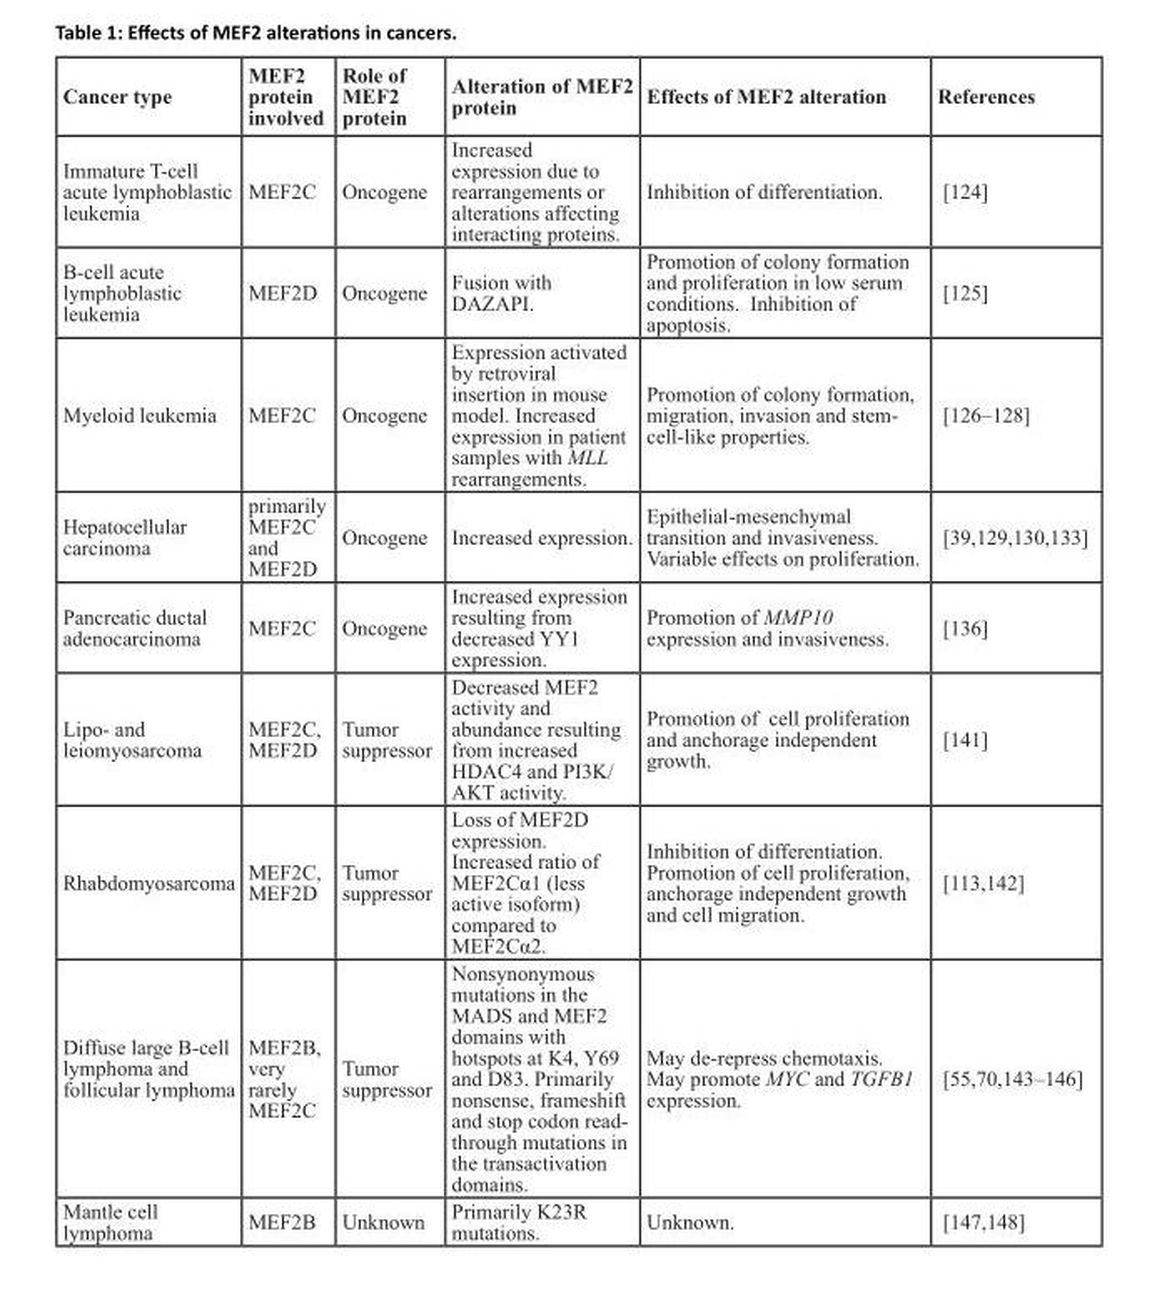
<table><thead><tr><td>Cancer type</td><td>MEF2 protein involved</td><td>Role of MEF2 protein</td><td>Alteration of MEF2 protein</td><td>Effects of MEF2 alteration</td><td>References</td></tr></thead><tbody><tr><td>Immature T-cell acute lymphoblastic leukemia</td><td>MEF2C</td><td>Oncogene</td><td>Increased expression due to rearrangements or alterations affecting interacting proteins.</td><td>Inhibition of differentiation.</td><td>[124]</td></tr><tr><td>B-cell acute lymphoblastic leukemia</td><td>MEF2D</td><td>Oncogene</td><td>Fusion with DAZAPI.</td><td>Promotion of colony formation and proliferation in low serum conditions. Inhibition of apoptosis.</td><td>[125]</td></tr><tr><td>Myeloid leukemia</td><td>MEF2C</td><td>Oncogene</td><td>Expression activated by retroviral insertion in mouse model. Increased expression in patient samples with MLL rearrangements.</td><td>Promotion of colony formation, migration, invasion and stem- cell-like properties.</td><td>[126–128]</td></tr><tr><td>Hepatocellular carcinoma</td><td>primarily MEF2C and MEF2D</td><td>Oncogene</td><td>Increased expression.</td><td>Epithelial-mesenchymal transition and invasiveness. Variable effects on proliferation.</td><td>[39,129,130,133]</td></tr><tr><td>Pancreatic ductal adenocarcinoma</td><td>MEF2C</td><td>Oncogene</td><td>Increased expression resulting from decreased YY1 expression.</td><td>Promotion of MMP10 expression and invasiveness.</td><td>[136]</td></tr><tr><td>Lipo- and leiomyosarcoma</td><td>MEF2C, MEF2D</td><td>Tumor suppressor</td><td>Decreased MEF2 activity and abundance resulting from increased HDAC4 and PI3K/ AKT activity.</td><td>Promotion of cell proliferation and anchorage independent growth.</td><td>[141]</td></tr><tr><td>Rhabdomyosarcoma</td><td>MEF2C, MEF2D</td><td>Tumor suppressor</td><td>Loss of MEF2D expression. Increased ratio of MEF2Cα1 (less active isoform) compared to MEF2Cα2.</td><td>Inhibition of differentiation. Promotion of cell proliferation, anchorage independent growth and cell migration.</td><td>[113,142]</td></tr><tr><td>Diffuse large B-cell lymphoma and follicular lymphoma</td><td>MEF2B, very rarely MEF2C</td><td>Tumor suppressor</td><td>Nonsynonymous mutations in the MADS and MEF2 domains with hotspots at K4, Y69 and D83. Primarily nonsense, frameshift and stop codon read- through mutations in the transactivation domains.</td><td>May de-repress chemotaxis. May promote MYC and TGFB1 expression.</td><td>[55,70,143–146]</td></tr><tr><td>Mantle cell lymphoma</td><td>MEF2B</td><td>Unknown</td><td>Primarily K23R mutations.</td><td>Unknown.</td><td>[147,148]</td></tr></tbody></table>